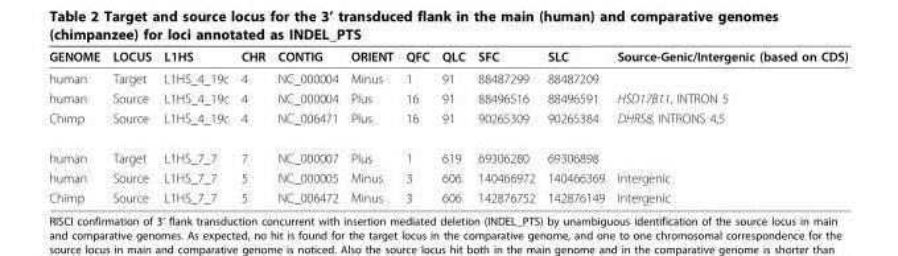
<table><thead><tr><td>GENOME</td><td>LOCUS</td><td>L1HS</td><td>CHR</td><td>CONTIG</td><td>ORIENT</td><td>QFC</td><td>QLC</td><td>SFC</td><td>SLC</td><td>Source-Genic/Intergenic (based on CDS)</td></tr></thead><tbody><tr><td>human</td><td>Target</td><td>L1HS_4_19c</td><td>4</td><td>NC_000004</td><td>Minus</td><td>1</td><td>91</td><td>88487299</td><td>88487209</td><td></td></tr><tr><td>human</td><td>Source</td><td>L1HS_4_19c</td><td>4</td><td>NC_000004</td><td>Plus</td><td>16</td><td>91</td><td>88496516</td><td>88496591</td><td>HSD17B11, INTRON 5</td></tr><tr><td>Chimp</td><td>Source</td><td>L1HS_4_19c</td><td>4</td><td>NC_006471</td><td>Plus</td><td>16</td><td>91</td><td>90265309</td><td>90265384</td><td>DHRS8, INTRONS 4,5</td></tr><tr><td>human</td><td>Target</td><td>L1HS_7_7</td><td>7</td><td>NC_000007</td><td>Plus</td><td>1</td><td>619</td><td>69306280</td><td>69306898</td><td></td></tr><tr><td>human</td><td>Source</td><td>L1HS_7_7</td><td>5</td><td>NC_000005</td><td>Minus</td><td>3</td><td>606</td><td>140466972</td><td>140466369</td><td>Intergenic</td></tr><tr><td>Chimp</td><td>Source</td><td>L1HS_7_7</td><td>5</td><td>NC_006472</td><td>Minus</td><td>3</td><td>606</td><td>142876752</td><td>142876149</td><td>Intergenic</td></tr></tbody></table>